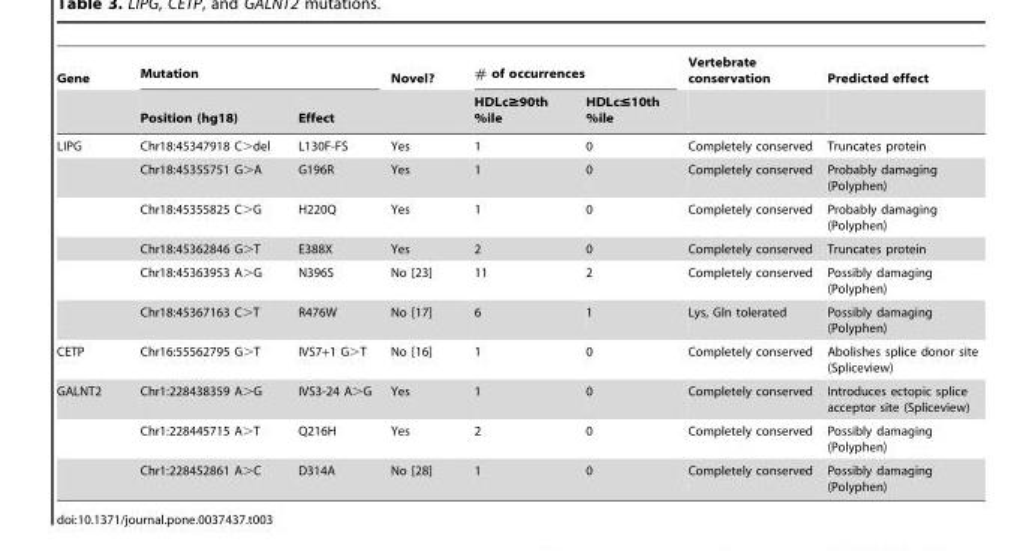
<table><thead><tr><td rowspan="2">Gene</td><td colspan="2">Mutation</td><td rowspan="2">Novel?</td><td colspan="2"># of occurrences</td><td rowspan="2">Vertebrate conservation</td><td rowspan="2">Predicted effect</td></tr><tr><td>Position (hg18)</td><td>Effect</td><td>HDLc≥90th %ile</td><td>HDLc≤10th %ile</td></tr></thead><tbody><tr><td rowspan="6">LIPG</td><td>Chr18:45347918 C&gt;del</td><td>L130F-FS</td><td>Yes</td><td>1</td><td>0</td><td>Completely conserved</td><td>Truncates protein</td></tr><tr><td>Chr18:45355751 G&gt;A</td><td>G196R</td><td>Yes</td><td>1</td><td>0</td><td>Completely conserved</td><td>Probably damaging (Polyphen)</td></tr><tr><td>Chr18:45355825 C&gt;G</td><td>H220Q</td><td>Yes</td><td>1</td><td>0</td><td>Completely conserved</td><td>Probably damaging (Polyphen)</td></tr><tr><td>Chr18:45362846 G&gt;T</td><td>E388X</td><td>Yes</td><td>2</td><td>0</td><td>Completely conserved</td><td>Truncates protein</td></tr><tr><td>Chr18:45363953 A&gt;G</td><td>N396S</td><td>No [23]</td><td>11</td><td>2</td><td>Completely conserved</td><td>Possibly damaging (Polyphen)</td></tr><tr><td>Chr18:45367163 C&gt;T</td><td>R476W</td><td>No [17]</td><td>6</td><td>1</td><td>Lys, Gln tolerated</td><td>Possibly damaging (Polyphen)</td></tr><tr><td>CETP</td><td>Chr16:55562795 G&gt;T</td><td>IVS7+1 G&gt;T</td><td>No [16]</td><td>1</td><td>0</td><td>Completely conserved</td><td>Abolishes splice donor site (Spliceview)</td></tr><tr><td rowspan="3">GALNT2</td><td>Chr1:228438359 A&gt;G</td><td>IVS3-24 A&gt;G</td><td>Yes</td><td>1</td><td>0</td><td>Completely conserved</td><td>Introduces ectopic splice acceptor site (Spliceview)</td></tr><tr><td>Chr1:228445715 A&gt;T</td><td>Q216H</td><td>Yes</td><td>2</td><td>0</td><td>Completely conserved</td><td>Possibly damaging (Polyphen)</td></tr><tr><td>Chr1:228452861 A&gt;C</td><td>D314A</td><td>No [28]</td><td>1</td><td>0</td><td>Completely conserved</td><td>Possibly damaging (Polyphen)</td></tr></tbody></table>